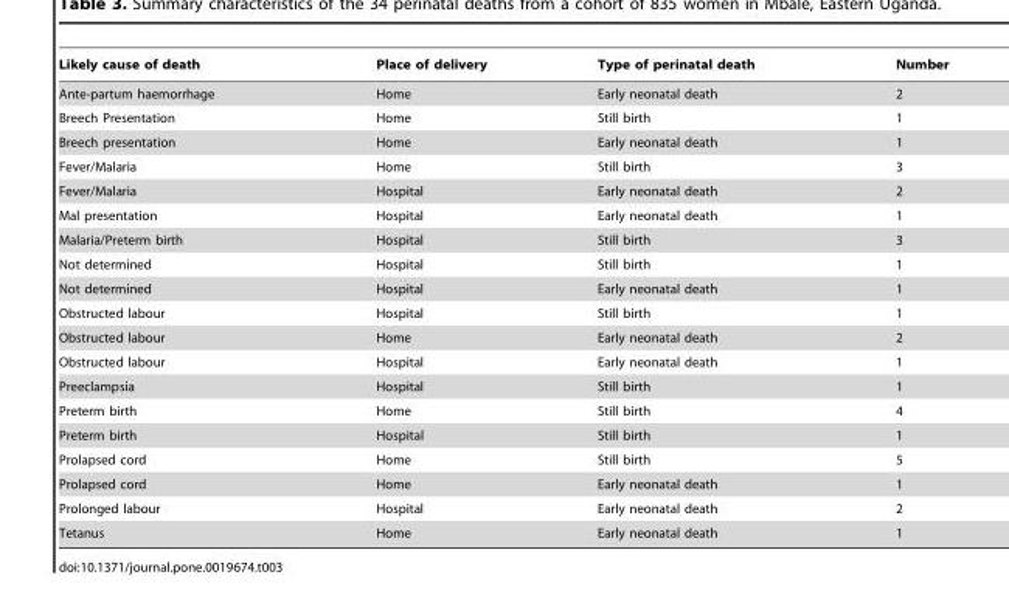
<table><thead><tr><td>Likely cause of death</td><td>Place of delivery</td><td>Type of perinatal death</td><td>Number</td></tr></thead><tbody><tr><td>Ante-partum haemorrhage</td><td>Home</td><td>Early neonatal death</td><td>2</td></tr><tr><td>Breech Presentation</td><td>Home</td><td>Still birth</td><td>1</td></tr><tr><td>Breech presentation</td><td>Home</td><td>Early neonatal death</td><td>1</td></tr><tr><td>Fever/Malaria</td><td>Home</td><td>Still birth</td><td>3</td></tr><tr><td>Fever/Malaria</td><td>Hospital</td><td>Early neonatal death</td><td>2</td></tr><tr><td>Mal presentation</td><td>Hospital</td><td>Early neonatal death</td><td>1</td></tr><tr><td>Malaria/Preterm birth</td><td>Hospital</td><td>Still birth</td><td>3</td></tr><tr><td>Not determined</td><td>Hospital</td><td>Still birth</td><td>1</td></tr><tr><td>Not determined</td><td>Hospital</td><td>Early neonatal death</td><td>1</td></tr><tr><td>Obstructed labour</td><td>Hospital</td><td>Still birth</td><td>1</td></tr><tr><td>Obstructed labour</td><td>Home</td><td>Early neonatal death</td><td>2</td></tr><tr><td>Obstructed labour</td><td>Hospital</td><td>Early neonatal death</td><td>1</td></tr><tr><td>Preeclampsia</td><td>Hospital</td><td>Still birth</td><td>1</td></tr><tr><td>Preterm birth</td><td>Home</td><td>Still birth</td><td>4</td></tr><tr><td>Preterm birth</td><td>Hospital</td><td>Still birth</td><td>1</td></tr><tr><td>Prolapsed cord</td><td>Home</td><td>Still birth</td><td>5</td></tr><tr><td>Prolapsed cord</td><td>Home</td><td>Early neonatal death</td><td>1</td></tr><tr><td>Prolonged labour</td><td>Hospital</td><td>Early neonatal death</td><td>2</td></tr><tr><td>Tetanus</td><td>Home</td><td>Early neonatal death</td><td>1</td></tr></tbody></table>